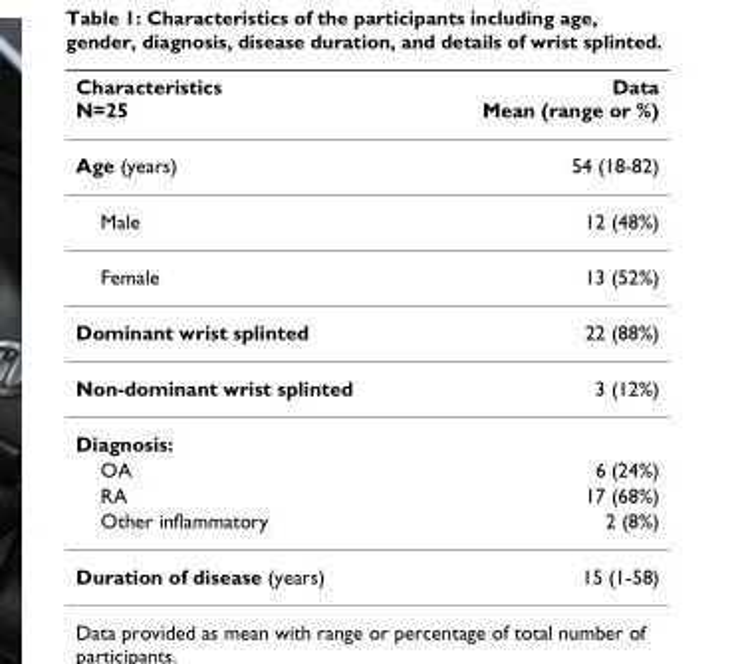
<table><thead><tr><td>Characteristics N=25</td><td>Data Mean (range or %)</td></tr></thead><tbody><tr><td>Age (years)</td><td>54 (18-82)</td></tr><tr><td>Male</td><td>12 (48%)</td></tr><tr><td>Female</td><td>13 (52%)</td></tr><tr><td>Dominant wrist splinted</td><td>22 (88%)</td></tr><tr><td>Non-dominant wrist splinted</td><td>3 (12%)</td></tr><tr><td colspan="2">Diagnosis:</td></tr><tr><td>OA</td><td>6 (24%)</td></tr><tr><td>RA</td><td>17 (68%)</td></tr><tr><td>Other inflammatory</td><td>2 (8%)</td></tr><tr><td>Duration of disease (years)</td><td>15 (1-58)</td></tr></tbody></table>